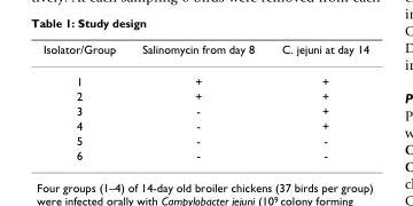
<table><thead><tr><td>Isolator/Group</td><td>Salinomycin from day 8</td><td>C. jejuni at day 14</td></tr></thead><tbody><tr><td>1</td><td>+</td><td>+</td></tr><tr><td>2</td><td>+</td><td>+</td></tr><tr><td>3</td><td>-</td><td>+</td></tr><tr><td>4</td><td>-</td><td>+</td></tr><tr><td>5</td><td>-</td><td>-</td></tr><tr><td>6</td><td>-</td><td>-</td></tr></tbody></table>